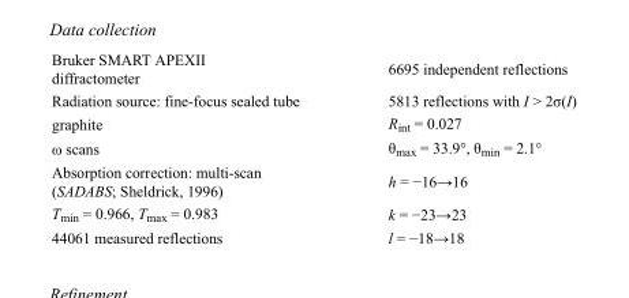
<table><tbody><tr><td>Bruker SMART APEXII diffractometer</td><td>6695 independent reflections</td></tr><tr><td>Radiation source: fine-focus sealed tube</td><td>5813 reflections with I &gt; 2σ(I)</td></tr><tr><td>graphite</td><td>R<sub>int</sub> = 0.027</td></tr><tr><td>ω scans</td><td>θ<sub>max</sub> = 33.9°, θ<sub>min</sub> = 2.1°</td></tr><tr><td>Absorption correction: multi-scan (SADABS; Sheldrick, 1996)</td><td>h = −16→16</td></tr><tr><td>T<sub>min</sub> = 0.966, T<sub>max</sub> = 0.983</td><td>k = −23→23</td></tr><tr><td>44061 measured reflections</td><td>l = −18→18</td></tr></tbody></table>